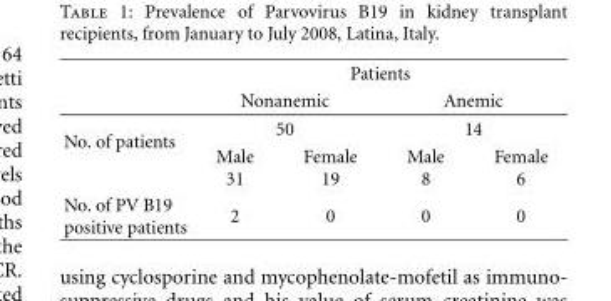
<table><thead><tr><td rowspan="4">No. of patients</td><td colspan="4">Patients</td></tr><tr><td rowspan="2" colspan="2">Nonanemic 50</td><td rowspan="2" colspan="2">Anemic 14</td></tr><tr></tr><tr><td>Male 31</td><td>Female 19</td><td>Male 8</td><td>Female 6</td></tr></thead><tbody><tr><td>No. of PV B19 positive patients</td><td>2</td><td>0</td><td>0</td><td>0</td></tr></tbody></table>